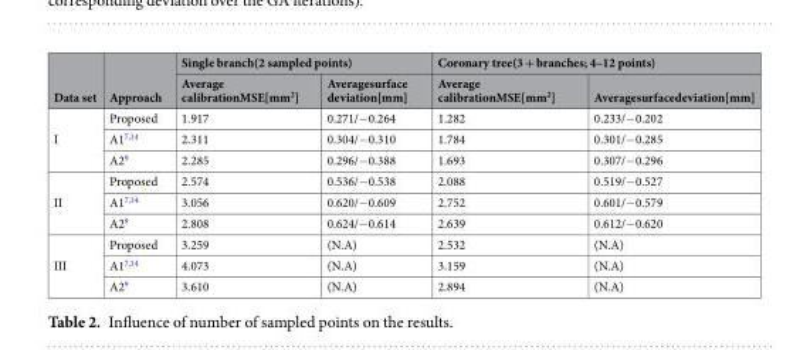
<table><thead><tr><td rowspan="2">Data set</td><td rowspan="2">Approach</td><td colspan="2">Single branch(2 sampled points)</td><td colspan="2">Coronary tree(3 + branches; 4–12 points)</td></tr><tr><td>Average calibrationMSE[mm<sup>2</sup>]</td><td>Averagesurface deviation[mm]</td><td>Average calibrationMSE[mm<sup>2</sup>]</td><td>Averagesurfacedeviation[mm]</td></tr></thead><tbody><tr><td rowspan="3">I</td><td>Proposed</td><td>1.917</td><td>0.271/−0.264</td><td>1.282</td><td>0.233/−0.202</td></tr><tr><td>A1<sup>7,14</sup></td><td>2.311</td><td>0.304/−0.310</td><td>1.784</td><td>0.301/−0.285</td></tr><tr><td>A2<sup>9</sup></td><td>2.285</td><td>0.296/−0.388</td><td>1.693</td><td>0.307/−0.296</td></tr><tr><td rowspan="3">II</td><td>Proposed</td><td>2.574</td><td>0.536/−0.538</td><td>2.088</td><td>0.519/−0.527</td></tr><tr><td>A1<sup>7,14</sup></td><td>3.056</td><td>0.620/−0.609</td><td>2.752</td><td>0.601/−0.579</td></tr><tr><td>A2<sup>9</sup></td><td>2.808</td><td>0.624/−0.614</td><td>2.639</td><td>0.612/−0.620</td></tr><tr><td rowspan="3">III</td><td>Proposed</td><td>3.259</td><td>(N.A)</td><td>2.532</td><td>(N.A)</td></tr><tr><td>A1<sup>7,14</sup></td><td>4.073</td><td>(N.A)</td><td>3.159</td><td>(N.A)</td></tr><tr><td>A2<sup>9</sup></td><td>3.610</td><td>(N.A)</td><td>2.894</td><td>(N.A)</td></tr></tbody></table>